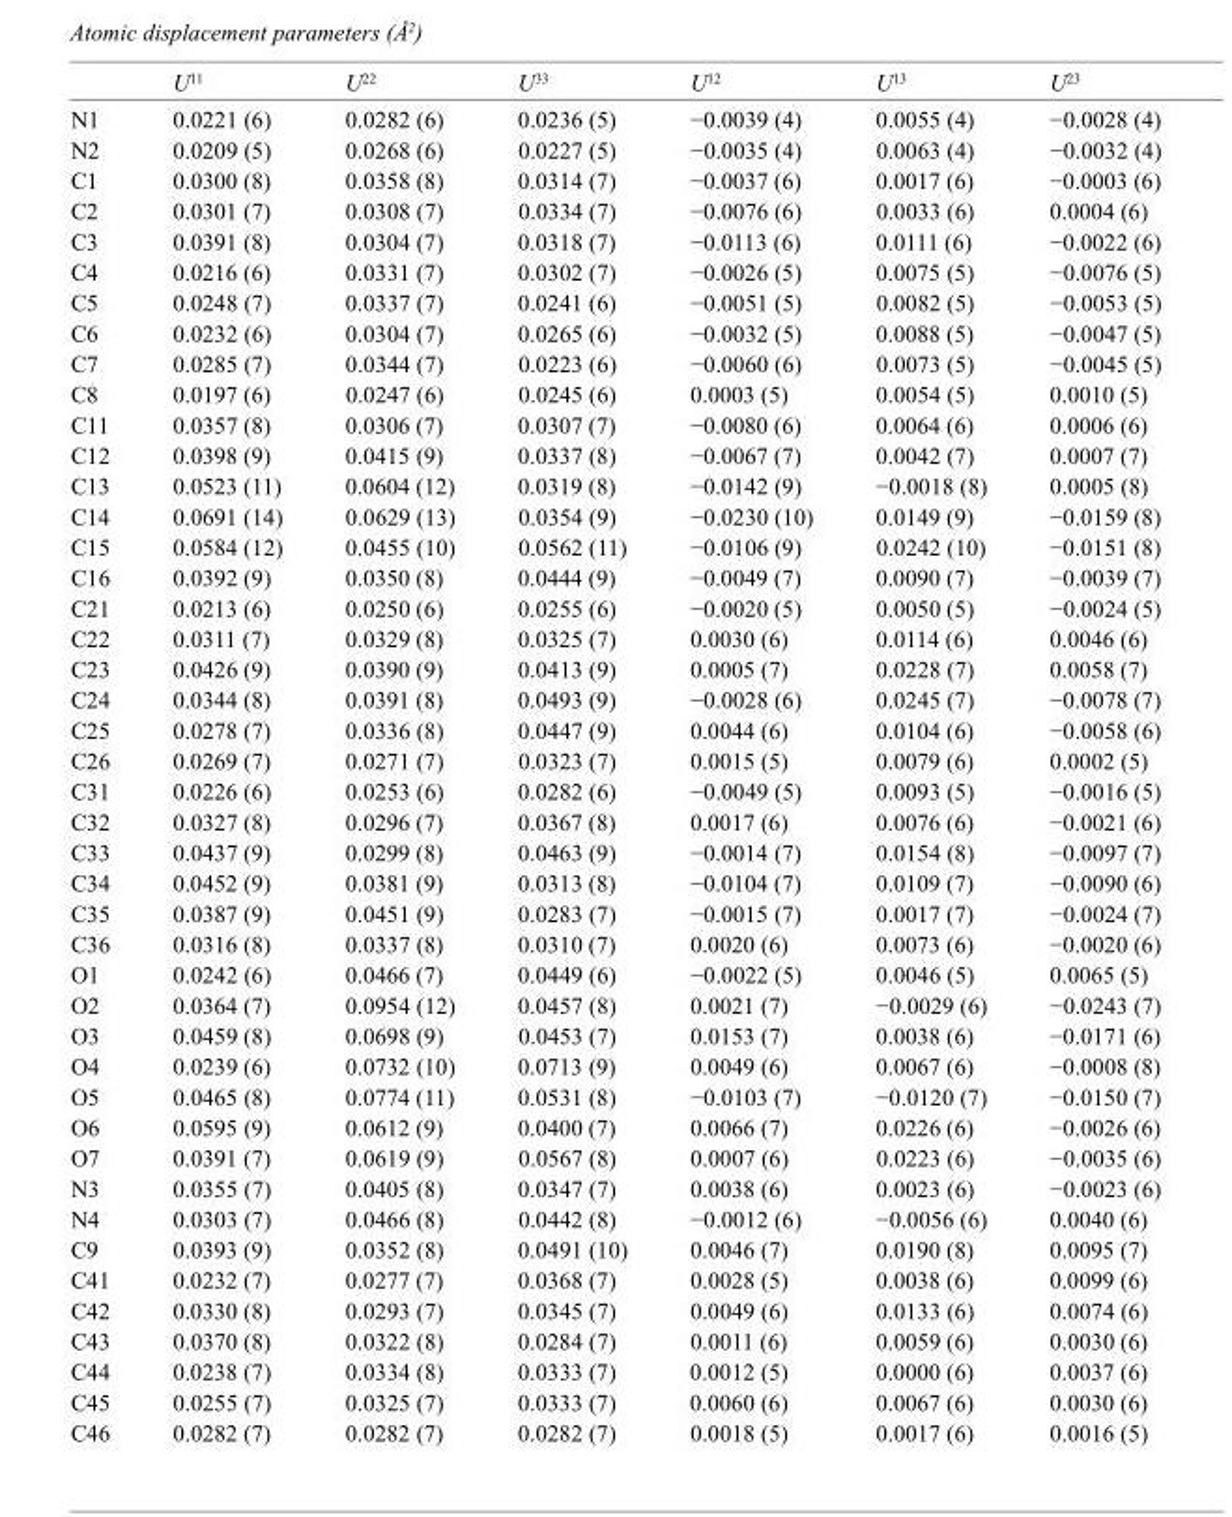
<table><thead><tr><td></td><td>U<sup>11</sup></td><td>U<sup>22</sup></td><td>U<sup>33</sup></td><td>U<sup>12</sup></td><td>U<sup>13</sup></td><td>U<sup>23</sup></td></tr></thead><tbody><tr><td>N1</td><td>0.0221 (6)</td><td>0.0282 (6)</td><td>0.0236 (5)</td><td>−0.0039 (4)</td><td>0.0055 (4)</td><td>−0.0028 (4)</td></tr><tr><td>N2</td><td>0.0209 (5)</td><td>0.0268 (6)</td><td>0.0227 (5)</td><td>−0.0035 (4)</td><td>0.0063 (4)</td><td>−0.0032 (4)</td></tr><tr><td>C1</td><td>0.0300 (8)</td><td>0.0358 (8)</td><td>0.0314 (7)</td><td>−0.0037 (6)</td><td>0.0017 (6)</td><td>−0.0003 (6)</td></tr><tr><td>C2</td><td>0.0301 (7)</td><td>0.0308 (7)</td><td>0.0334 (7)</td><td>−0.0076 (6)</td><td>0.0033 (6)</td><td>0.0004 (6)</td></tr><tr><td>C3</td><td>0.0391 (8)</td><td>0.0304 (7)</td><td>0.0318 (7)</td><td>−0.0113 (6)</td><td>0.0111 (6)</td><td>−0.0022 (6)</td></tr><tr><td>C4</td><td>0.0216 (6)</td><td>0.0331 (7)</td><td>0.0302 (7)</td><td>−0.0026 (5)</td><td>0.0075 (5)</td><td>−0.0076 (5)</td></tr><tr><td>C5</td><td>0.0248 (7)</td><td>0.0337 (7)</td><td>0.0241 (6)</td><td>−0.0051 (5)</td><td>0.0082 (5)</td><td>−0.0053 (5)</td></tr><tr><td>C6</td><td>0.0232 (6)</td><td>0.0304 (7)</td><td>0.0265 (6)</td><td>−0.0032 (5)</td><td>0.0088 (5)</td><td>−0.0047 (5)</td></tr><tr><td>C7</td><td>0.0285 (7)</td><td>0.0344 (7)</td><td>0.0223 (6)</td><td>−0.0060 (6)</td><td>0.0073 (5)</td><td>−0.0045 (5)</td></tr><tr><td>C8</td><td>0.0197 (6)</td><td>0.0247 (6)</td><td>0.0245 (6)</td><td>0.0003 (5)</td><td>0.0054 (5)</td><td>0.0010 (5)</td></tr><tr><td>C11</td><td>0.0357 (8)</td><td>0.0306 (7)</td><td>0.0307 (7)</td><td>−0.0080 (6)</td><td>0.0064 (6)</td><td>0.0006 (6)</td></tr><tr><td>C12</td><td>0.0398 (9)</td><td>0.0415 (9)</td><td>0.0337 (8)</td><td>−0.0067 (7)</td><td>0.0042 (7)</td><td>0.0007 (7)</td></tr><tr><td>C13</td><td>0.0523 (11)</td><td>0.0604 (12)</td><td>0.0319 (8)</td><td>−0.0142 (9)</td><td>−0.0018 (8)</td><td>0.0005 (8)</td></tr><tr><td>C14</td><td>0.0691 (14)</td><td>0.0629 (13)</td><td>0.0354 (9)</td><td>−0.0230 (10)</td><td>0.0149 (9)</td><td>−0.0159 (8)</td></tr><tr><td>C15</td><td>0.0584 (12)</td><td>0.0455 (10)</td><td>0.0562 (11)</td><td>−0.0106 (9)</td><td>0.0242 (10)</td><td>−0.0151 (8)</td></tr><tr><td>C16</td><td>0.0392 (9)</td><td>0.0350 (8)</td><td>0.0444 (9)</td><td>−0.0049 (7)</td><td>0.0090 (7)</td><td>−0.0039 (7)</td></tr><tr><td>C21</td><td>0.0213 (6)</td><td>0.0250 (6)</td><td>0.0255 (6)</td><td>−0.0020 (5)</td><td>0.0050 (5)</td><td>−0.0024 (5)</td></tr><tr><td>C22</td><td>0.0311 (7)</td><td>0.0329 (8)</td><td>0.0325 (7)</td><td>0.0030 (6)</td><td>0.0114 (6)</td><td>0.0046 (6)</td></tr><tr><td>C23</td><td>0.0426 (9)</td><td>0.0390 (9)</td><td>0.0413 (9)</td><td>0.0005 (7)</td><td>0.0228 (7)</td><td>0.0058 (7)</td></tr><tr><td>C24</td><td>0.0344 (8)</td><td>0.0391 (8)</td><td>0.0493 (9)</td><td>−0.0028 (6)</td><td>0.0245 (7)</td><td>−0.0078 (7)</td></tr><tr><td>C25</td><td>0.0278 (7)</td><td>0.0336 (8)</td><td>0.0447 (9)</td><td>0.0044 (6)</td><td>0.0104 (6)</td><td>−0.0058 (6)</td></tr><tr><td>C26</td><td>0.0269 (7)</td><td>0.0271 (7)</td><td>0.0323 (7)</td><td>0.0015 (5)</td><td>0.0079 (6)</td><td>0.0002 (5)</td></tr><tr><td>C31</td><td>0.0226 (6)</td><td>0.0253 (6)</td><td>0.0282 (6)</td><td>−0.0049 (5)</td><td>0.0093 (5)</td><td>−0.0016 (5)</td></tr><tr><td>C32</td><td>0.0327 (8)</td><td>0.0296 (7)</td><td>0.0367 (8)</td><td>0.0017 (6)</td><td>0.0076 (6)</td><td>−0.0021 (6)</td></tr><tr><td>C33</td><td>0.0437 (9)</td><td>0.0299 (8)</td><td>0.0463 (9)</td><td>−0.0014 (7)</td><td>0.0154 (8)</td><td>−0.0097 (7)</td></tr><tr><td>C34</td><td>0.0452 (9)</td><td>0.0381 (9)</td><td>0.0313 (8)</td><td>−0.0104 (7)</td><td>0.0109 (7)</td><td>−0.0090 (6)</td></tr><tr><td>C35</td><td>0.0387 (9)</td><td>0.0451 (9)</td><td>0.0283 (7)</td><td>−0.0015 (7)</td><td>0.0017 (7)</td><td>−0.0024 (7)</td></tr><tr><td>C36</td><td>0.0316 (8)</td><td>0.0337 (8)</td><td>0.0310 (7)</td><td>0.0020 (6)</td><td>0.0073 (6)</td><td>−0.0020 (6)</td></tr><tr><td>O1</td><td>0.0242 (6)</td><td>0.0466 (7)</td><td>0.0449 (6)</td><td>−0.0022 (5)</td><td>0.0046 (5)</td><td>0.0065 (5)</td></tr><tr><td>O2</td><td>0.0364 (7)</td><td>0.0954 (12)</td><td>0.0457 (8)</td><td>0.0021 (7)</td><td>−0.0029 (6)</td><td>−0.0243 (7)</td></tr><tr><td>O3</td><td>0.0459 (8)</td><td>0.0698 (9)</td><td>0.0453 (7)</td><td>0.0153 (7)</td><td>0.0038 (6)</td><td>−0.0171 (6)</td></tr><tr><td>O4</td><td>0.0239 (6)</td><td>0.0732 (10)</td><td>0.0713 (9)</td><td>0.0049 (6)</td><td>0.0067 (6)</td><td>−0.0008 (8)</td></tr><tr><td>O5</td><td>0.0465 (8)</td><td>0.0774 (11)</td><td>0.0531 (8)</td><td>−0.0103 (7)</td><td>−0.0120 (7)</td><td>−0.0150 (7)</td></tr><tr><td>O6</td><td>0.0595 (9)</td><td>0.0612 (9)</td><td>0.0400 (7)</td><td>0.0066 (7)</td><td>0.0226 (6)</td><td>−0.0026 (6)</td></tr><tr><td>O7</td><td>0.0391 (7)</td><td>0.0619 (9)</td><td>0.0567 (8)</td><td>0.0007 (6)</td><td>0.0223 (6)</td><td>−0.0035 (6)</td></tr><tr><td>N3</td><td>0.0355 (7)</td><td>0.0405 (8)</td><td>0.0347 (7)</td><td>0.0038 (6)</td><td>0.0023 (6)</td><td>−0.0023 (6)</td></tr><tr><td>N4</td><td>0.0303 (7)</td><td>0.0466 (8)</td><td>0.0442 (8)</td><td>−0.0012 (6)</td><td>−0.0056 (6)</td><td>0.0040 (6)</td></tr><tr><td>C9</td><td>0.0393 (9)</td><td>0.0352 (8)</td><td>0.0491 (10)</td><td>0.0046 (7)</td><td>0.0190 (8)</td><td>0.0095 (7)</td></tr><tr><td>C41</td><td>0.0232 (7)</td><td>0.0277 (7)</td><td>0.0368 (7)</td><td>0.0028 (5)</td><td>0.0038 (6)</td><td>0.0099 (6)</td></tr><tr><td>C42</td><td>0.0330 (8)</td><td>0.0293 (7)</td><td>0.0345 (7)</td><td>0.0049 (6)</td><td>0.0133 (6)</td><td>0.0074 (6)</td></tr><tr><td>C43</td><td>0.0370 (8)</td><td>0.0322 (8)</td><td>0.0284 (7)</td><td>0.0011 (6)</td><td>0.0059 (6)</td><td>0.0030 (6)</td></tr><tr><td>C44</td><td>0.0238 (7)</td><td>0.0334 (8)</td><td>0.0333 (7)</td><td>0.0012 (5)</td><td>0.0000 (6)</td><td>0.0037 (6)</td></tr><tr><td>C45</td><td>0.0255 (7)</td><td>0.0325 (7)</td><td>0.0333 (7)</td><td>0.0060 (6)</td><td>0.0067 (6)</td><td>0.0030 (6)</td></tr><tr><td>C46</td><td>0.0282 (7)</td><td>0.0282 (7)</td><td>0.0282 (7)</td><td>0.0018 (5)</td><td>0.0017 (6)</td><td>0.0016 (5)</td></tr></tbody></table>